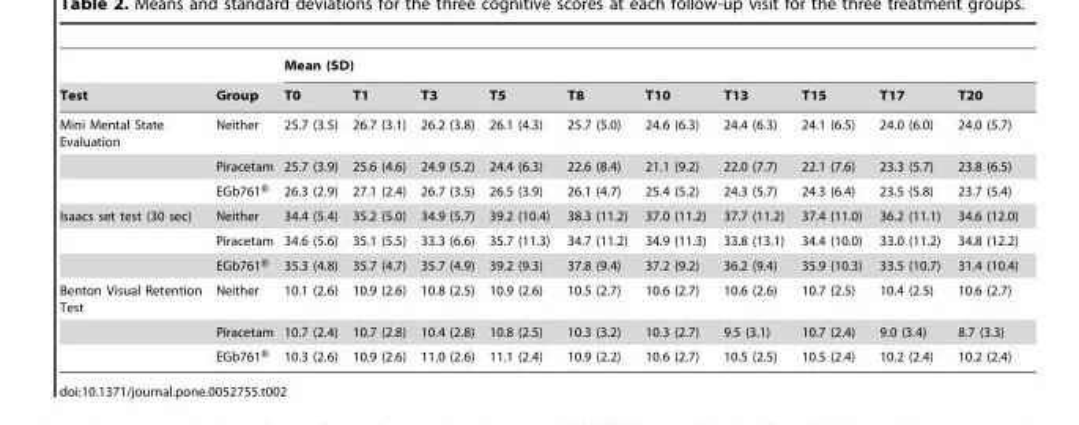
<table><thead><tr><td rowspan="2">Test</td><td rowspan="2">Group</td><td colspan="10">Mean (SD)</td></tr><tr><td>T0</td><td>T1</td><td>T3</td><td>T5</td><td>T8</td><td>T10</td><td>T13</td><td>T15</td><td>T17</td><td>T20</td></tr></thead><tbody><tr><td rowspan="3">Mini Mental State Evaluation</td><td>Neither</td><td>25.7 (3.5)</td><td>26.7 (3.1)</td><td>26.2 (3.8)</td><td>26.1 (4.3)</td><td>25.7 (5.0)</td><td>24.6 (6.3)</td><td>24.4 (6.3)</td><td>24.1 (6.5)</td><td>24.0 (6.0)</td><td>24.0 (5.7)</td></tr><tr><td>Piracetam</td><td>25.7 (3.9)</td><td>25.6 (4.6)</td><td>24.9 (5.2)</td><td>24.4 (6.3)</td><td>22.6 (8.4)</td><td>21.1 (9.2)</td><td>22.0 (7.7)</td><td>22.1 (7.6)</td><td>23.3 (5.7)</td><td>23.8 (6.5)</td></tr><tr><td>EGb761®</td><td>26.3 (2.9)</td><td>27.1 (2.4)</td><td>26.7 (3.5)</td><td>26.5 (3.9)</td><td>26.1 (4.7)</td><td>25.4 (5.2)</td><td>24.3 (5.7)</td><td>24.3 (6.4)</td><td>23.5 (5.8)</td><td>23.7 (5.4)</td></tr><tr><td rowspan="3">Isaacs set test (30 sec)</td><td>Neither</td><td>34.4 (5.4)</td><td>35.2 (5.0)</td><td>34.9 (5.7)</td><td>39.2 (10.4)</td><td>38.3 (11.2)</td><td>37.0 (11.2)</td><td>37.7 (11.2)</td><td>37.4 (11.0)</td><td>36.2 (11.1)</td><td>34.6 (12.0)</td></tr><tr><td>Piracetam</td><td>34.6 (5.6)</td><td>35.1 (5.5)</td><td>33.3 (6.6)</td><td>35.7 (11.3)</td><td>34.7 (11.2)</td><td>34.9 (11.3)</td><td>33.8 (13.1)</td><td>34.4 (10.0)</td><td>33.0 (11.2)</td><td>34.8 (12.2)</td></tr><tr><td>EGb761®</td><td>35.3 (4.8)</td><td>35.7 (4.7)</td><td>35.7 (4.9)</td><td>39.2 (9.3)</td><td>37.8 (9.4)</td><td>37.2 (9.2)</td><td>36.2 (9.4)</td><td>35.9 (10.3)</td><td>33.5 (10.7)</td><td>31.4 (10.4)</td></tr><tr><td rowspan="3">Benton Visual Retention Test</td><td>Neither</td><td>10.1 (2.6)</td><td>10.9 (2.6)</td><td>10.8 (2.5)</td><td>10.9 (2.6)</td><td>10.5 (2.7)</td><td>10.6 (2.7)</td><td>10.6 (2.6)</td><td>10.7 (2.5)</td><td>10.4 (2.5)</td><td>10.6 (2.7)</td></tr><tr><td>Piracetam</td><td>10.7 (2.4)</td><td>10.7 (2.8)</td><td>10.4 (2.8)</td><td>10.8 (2.5)</td><td>10.3 (3.2)</td><td>10.3 (2.7)</td><td>9.5 (3.1)</td><td>10.7 (2.4)</td><td>9.0 (3.4)</td><td>8.7 (3.3)</td></tr><tr><td>EGb761®</td><td>10.3 (2.6)</td><td>10.9 (2.6)</td><td>11.0 (2.6)</td><td>11.1 (2.4)</td><td>10.9 (2.2)</td><td>10.6 (2.7)</td><td>10.5 (2.5)</td><td>10.5 (2.4)</td><td>10.2 (2.4)</td><td>10.2 (2.4)</td></tr></tbody></table>